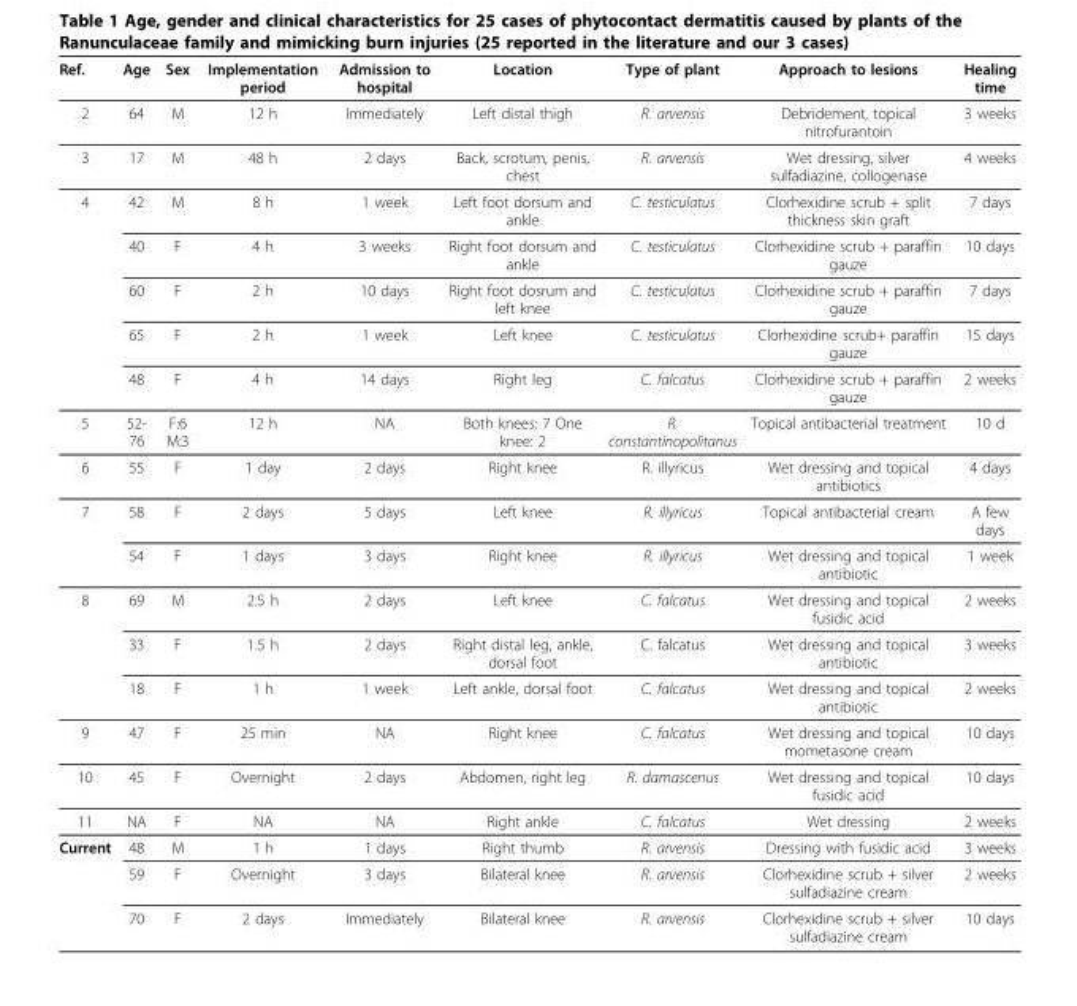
<table><thead><tr><td>Ref.</td><td>Age</td><td>Sex</td><td>Implementation period</td><td>Admission to hospital</td><td>Location</td><td>Type of plant</td><td>Approach to lesions</td><td>Healing time</td></tr></thead><tbody><tr><td>2</td><td>64</td><td>M</td><td>12 h</td><td>Immediately</td><td>Left distal thigh</td><td>R. arvensis</td><td>Debridement, topical nitrofurantoin</td><td>3 weeks</td></tr><tr><td>3</td><td>17</td><td>M</td><td>48 h</td><td>2 days</td><td>Back, scrotum, penis, chest</td><td>R. arvensis</td><td>Wet dressing, silver sulfadiazine, collogenase</td><td>4 weeks</td></tr><tr><td rowspan="5">4</td><td>42</td><td>M</td><td>8 h</td><td>1 week</td><td>Left foot dorsum and ankle</td><td>C. testiculatus</td><td>Clorhexidine scrub + split thickness skin graft</td><td>7 days</td></tr><tr><td>40</td><td>F</td><td>4 h</td><td>3 weeks</td><td>Right foot dorsum and ankle</td><td>C. testiculatus</td><td>Clorhexidine scrub + paraffin gauze</td><td>10 days</td></tr><tr><td>60</td><td>F</td><td>2 h</td><td>10 days</td><td>Right foot dosrum and left knee</td><td>C. testiculatus</td><td>Clorhexidine scrub + paraffin gauze</td><td>7 days</td></tr><tr><td>65</td><td>F</td><td>2 h</td><td>1 week</td><td>Left knee</td><td>C. testiculatus</td><td>Clorhexidine scrub+ paraffin gauze</td><td>15 days</td></tr><tr><td>48</td><td>F</td><td>4 h</td><td>14 days</td><td>Right leg</td><td>C. falcatus</td><td>Clorhexidine scrub + paraffin gauze</td><td>2 weeks</td></tr><tr><td>5</td><td>52- 76</td><td>F:6 M:3</td><td>12 h</td><td>NA</td><td>Both knees: 7 One knee: 2</td><td>R. constantinopolitanus</td><td>Topical antibacterial treatment</td><td>10 d</td></tr><tr><td>6</td><td>55</td><td>F</td><td>1 day</td><td>2 days</td><td>Right knee</td><td>R. illyricus</td><td>Wet dressing and topical antibiotics</td><td>4 days</td></tr><tr><td rowspan="2">7</td><td>58</td><td>F</td><td>2 days</td><td>5 days</td><td>Left knee</td><td>R. illyricus</td><td>Topical antibacterial cream</td><td>A few days</td></tr><tr><td>54</td><td>F</td><td>1 days</td><td>3 days</td><td>Right knee</td><td>R. illyricus</td><td>Wet dressing and topical antibiotic</td><td>1 week</td></tr><tr><td rowspan="3">8</td><td>69</td><td>M</td><td>2.5 h</td><td>2 days</td><td>Left knee</td><td>C. falcatus</td><td>Wet dressing and topical fusidic acid</td><td>2 weeks</td></tr><tr><td>33</td><td>F</td><td>1.5 h</td><td>2 days</td><td>Right distal leg, ankle, dorsal foot</td><td>C. falcatus</td><td>Wet dressing and topical antibiotic</td><td>3 weeks</td></tr><tr><td>18</td><td>F</td><td>1 h</td><td>1 week</td><td>Left ankle, dorsal foot</td><td>C. falcatus</td><td>Wet dressing and topical antibiotic</td><td>2 weeks</td></tr><tr><td>9</td><td>47</td><td>F</td><td>25 min</td><td>NA</td><td>Right knee</td><td>C. falcatus</td><td>Wet dressing and topical mometasone cream</td><td>10 days</td></tr><tr><td>10</td><td>45</td><td>F</td><td>Overnight</td><td>2 days</td><td>Abdomen, right leg</td><td>R. damascenus</td><td>Wet dressing and topical fusidic acid</td><td>10 days</td></tr><tr><td>11</td><td>NA</td><td>F</td><td>NA</td><td>NA</td><td>Right ankle</td><td>C. falcatus</td><td>Wet dressing</td><td>2 weeks</td></tr><tr><td rowspan="3">Current</td><td>48</td><td>M</td><td>1 h</td><td>1 days</td><td>Right thumb</td><td>R. arvensis</td><td>Dressing with fusidic acid</td><td>3 weeks</td></tr><tr><td>59</td><td>F</td><td>Overnight</td><td>3 days</td><td>Bilateral knee</td><td>R. arvensis</td><td>Clorhexidine scrub + silver sulfadiazine cream</td><td>2 weeks</td></tr><tr><td>70</td><td>F</td><td>2 days</td><td>Immediately</td><td>Bilateral knee</td><td>R. arvensis</td><td>Clorhexidine scrub + silver sulfadiazine cream</td><td>10 days</td></tr></tbody></table>